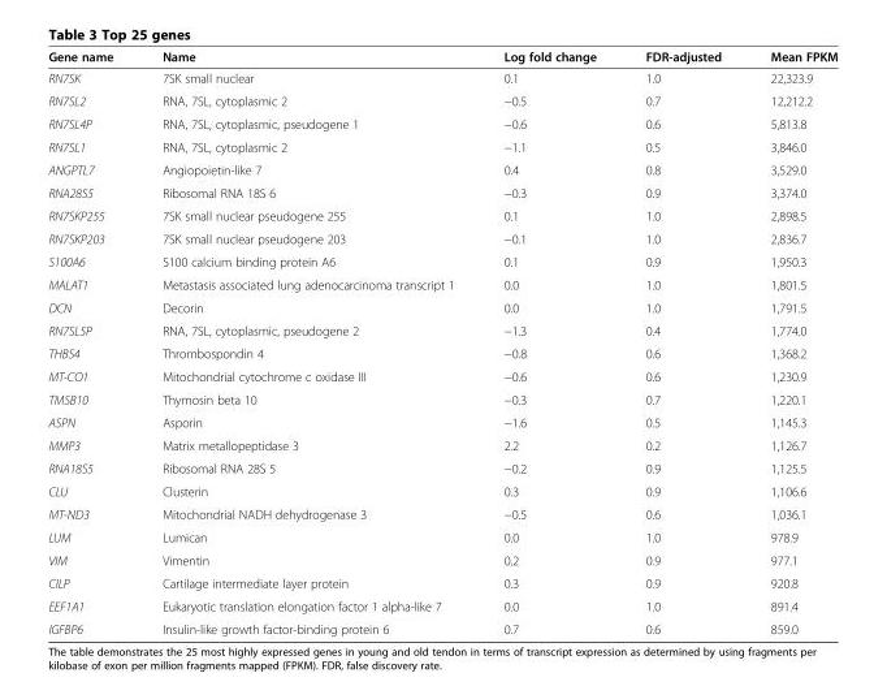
<table><thead><tr><td>Gene name</td><td>Name</td><td>Log fold change</td><td>FDR-adjusted</td><td>Mean FPKM</td></tr></thead><tbody><tr><td>RN7SK</td><td>7SK small nuclear</td><td>0.1</td><td>1.0</td><td>22,323.9</td></tr><tr><td>RN7SL2</td><td>RNA, 7SL, cytoplasmic 2</td><td>−0.5</td><td>0.7</td><td>12,212.2</td></tr><tr><td>RN7SL4P</td><td>RNA, 7SL, cytoplasmic, pseudogene 1</td><td>−0.6</td><td>0.6</td><td>5,813.8</td></tr><tr><td>RN7SL1</td><td>RNA, 7SL, cytoplasmic 2</td><td>−1.1</td><td>0.5</td><td>3,846.0</td></tr><tr><td>ANGPTL7</td><td>Angiopoietin-like 7</td><td>0.4</td><td>0.8</td><td>3,529.0</td></tr><tr><td>RNA28S5</td><td>Ribosomal RNA 18S 6</td><td>−0.3</td><td>0.9</td><td>3,374.0</td></tr><tr><td>RN7SKP255</td><td>7SK small nuclear pseudogene 255</td><td>0.1</td><td>1.0</td><td>2,898.5</td></tr><tr><td>RN7SKP203</td><td>7SK small nuclear pseudogene 203</td><td>−0.1</td><td>1.0</td><td>2,836.7</td></tr><tr><td>S100A6</td><td>S100 calcium binding protein A6</td><td>0.1</td><td>0.9</td><td>1,950.3</td></tr><tr><td>MALAT1</td><td>Metastasis associated lung adenocarcinoma transcript 1</td><td>0.0</td><td>1.0</td><td>1,801.5</td></tr><tr><td>DCN</td><td>Decorin</td><td>0.0</td><td>1.0</td><td>1,791.5</td></tr><tr><td>RN7SL5P</td><td>RNA, 7SL, cytoplasmic, pseudogene 2</td><td>−1.3</td><td>0.4</td><td>1,774.0</td></tr><tr><td>THBS4</td><td>Thrombospondin 4</td><td>−0.8</td><td>0.6</td><td>1,368.2</td></tr><tr><td>MT-CO1</td><td>Mitochondrial cytochrome c oxidase III</td><td>−0.6</td><td>0.6</td><td>1,230.9</td></tr><tr><td>TMSB10</td><td>Thymosin beta 10</td><td>−0.3</td><td>0.7</td><td>1,220.1</td></tr><tr><td>ASPN</td><td>Asporin</td><td>−1.6</td><td>0.5</td><td>1,145.3</td></tr><tr><td>MMP3</td><td>Matrix metallopeptidase 3</td><td>2.2</td><td>0.2</td><td>1,126.7</td></tr><tr><td>RNA18S5</td><td>Ribosomal RNA 28S 5</td><td>−0.2</td><td>0.9</td><td>1,125.5</td></tr><tr><td>CLU</td><td>Clusterin</td><td>0.3</td><td>0.9</td><td>1,106.6</td></tr><tr><td>MT-ND3</td><td>Mitochondrial NADH dehydrogenase 3</td><td>−0.5</td><td>0.6</td><td>1,036.1</td></tr><tr><td>LUM</td><td>Lumican</td><td>0.0</td><td>1.0</td><td>978.9</td></tr><tr><td>VIM</td><td>Vimentin</td><td>0.2</td><td>0.9</td><td>977.1</td></tr><tr><td>CILP</td><td>Cartilage intermediate layer protein</td><td>0.3</td><td>0.9</td><td>920.8</td></tr><tr><td>EEF1A1</td><td>Eukaryotic translation elongation factor 1 alpha-like 7</td><td>0.0</td><td>1.0</td><td>891.4</td></tr><tr><td>IGFBP6</td><td>Insulin-like growth factor-binding protein 6</td><td>0.7</td><td>0.6</td><td>859.0</td></tr></tbody></table>